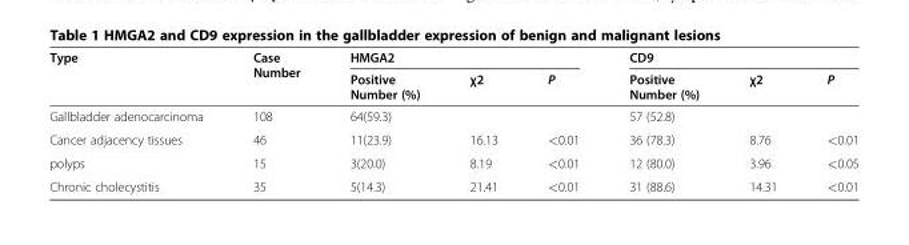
<table><thead><tr><td rowspan="2">Type</td><td rowspan="2">Case Number</td><td colspan="3">HMGA2</td><td colspan="3">CD9</td></tr><tr><td>Positive Number (%)</td><td>χ2</td><td>P</td><td>Positive Number (%)</td><td>χ2</td><td>P</td></tr></thead><tbody><tr><td>Gallbladder adenocarcinoma</td><td>108</td><td>64(59.3)</td><td></td><td></td><td>57 (52.8)</td><td></td><td></td></tr><tr><td>Cancer adjacency tissues</td><td>46</td><td>11(23.9)</td><td>16.13</td><td>&lt;0.01</td><td>36 (78.3)</td><td>8.76</td><td>&lt;0.01</td></tr><tr><td>polyps</td><td>15</td><td>3(20.0)</td><td>8.19</td><td>&lt;0.01</td><td>12 (80.0)</td><td>3.96</td><td>&lt;0.05</td></tr><tr><td>Chronic cholecystitis</td><td>35</td><td>5(14.3)</td><td>21.41</td><td>&lt;0.01</td><td>31 (88.6)</td><td>14.31</td><td>&lt;0.01</td></tr></tbody></table>